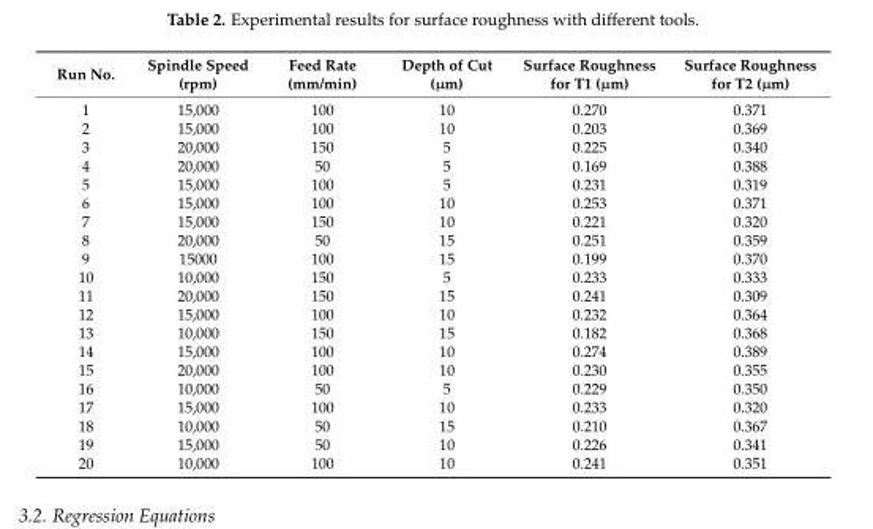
<table><thead><tr><td>Run No.</td><td>Spindle Speed (rpm)</td><td>Feed Rate (mm/min)</td><td>Depth of Cut (µm)</td><td>Surface Roughness for T1 (µm)</td><td>Surface Roughness for T2 (µm)</td></tr></thead><tbody><tr><td>1</td><td>15,000</td><td>100</td><td>10</td><td>0.270</td><td>0.371</td></tr><tr><td>2</td><td>15,000</td><td>100</td><td>10</td><td>0.203</td><td>0.369</td></tr><tr><td>3</td><td>20,000</td><td>150</td><td>5</td><td>0.225</td><td>0.340</td></tr><tr><td>4</td><td>20,000</td><td>50</td><td>5</td><td>0.169</td><td>0.388</td></tr><tr><td>5</td><td>15,000</td><td>100</td><td>5</td><td>0.231</td><td>0.319</td></tr><tr><td>6</td><td>15,000</td><td>100</td><td>10</td><td>0.253</td><td>0.371</td></tr><tr><td>7</td><td>15,000</td><td>150</td><td>10</td><td>0.221</td><td>0.320</td></tr><tr><td>8</td><td>20,000</td><td>50</td><td>15</td><td>0.251</td><td>0.359</td></tr><tr><td>9</td><td>15000</td><td>100</td><td>15</td><td>0.199</td><td>0.370</td></tr><tr><td>10</td><td>10,000</td><td>150</td><td>5</td><td>0.233</td><td>0.333</td></tr><tr><td>11</td><td>20,000</td><td>150</td><td>15</td><td>0.241</td><td>0.309</td></tr><tr><td>12</td><td>15,000</td><td>100</td><td>10</td><td>0.232</td><td>0.364</td></tr><tr><td>13</td><td>10,000</td><td>150</td><td>15</td><td>0.182</td><td>0.368</td></tr><tr><td>14</td><td>15,000</td><td>100</td><td>10</td><td>0.274</td><td>0.389</td></tr><tr><td>15</td><td>20,000</td><td>100</td><td>10</td><td>0.230</td><td>0.355</td></tr><tr><td>16</td><td>10,000</td><td>50</td><td>5</td><td>0.229</td><td>0.350</td></tr><tr><td>17</td><td>15,000</td><td>100</td><td>10</td><td>0.233</td><td>0.320</td></tr><tr><td>18</td><td>10,000</td><td>50</td><td>15</td><td>0.210</td><td>0.367</td></tr><tr><td>19</td><td>15,000</td><td>50</td><td>10</td><td>0.226</td><td>0.341</td></tr><tr><td>20</td><td>10,000</td><td>100</td><td>10</td><td>0.241</td><td>0.351</td></tr></tbody></table>